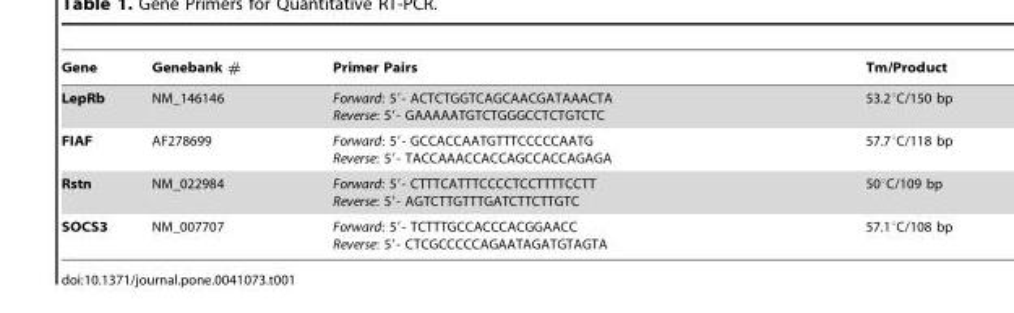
<table><thead><tr><td>Gene</td><td>Genebank #</td><td>Primer Pairs</td><td>Tm/Product</td></tr></thead><tbody><tr><td>LepRb</td><td>NM_146146</td><td>Forward: 5′- ACTCTGGTCAGCAACGATAAACTA Reverse: 5′- GAAAAATGTCTGGGCCTCTGTCTC</td><td>53.2°C/150 bp</td></tr><tr><td>FIAF</td><td>AF278699</td><td>Forward: 5′- GCCACCAATGTTTCCCCCAATG Reverse: 5′- TACCAAACCACCAGCCACCAGAGA</td><td>57.7°C/118 bp</td></tr><tr><td>Rstn</td><td>NM_022984</td><td>Forward: 5′- CTTTCATTTCCCCTCCTTTTCCTT Reverse: 5′- AGTCTTGTTTGATCTTCTTGTC</td><td>50°C/109 bp</td></tr><tr><td>SOCS3</td><td>NM_007707</td><td>Forward: 5′- TCTTTGCCACCCACGGAACC Reverse: 5′- CTCGCCCCCAGAATAGATGTAGTA</td><td>57.1°C/108 bp</td></tr></tbody></table>